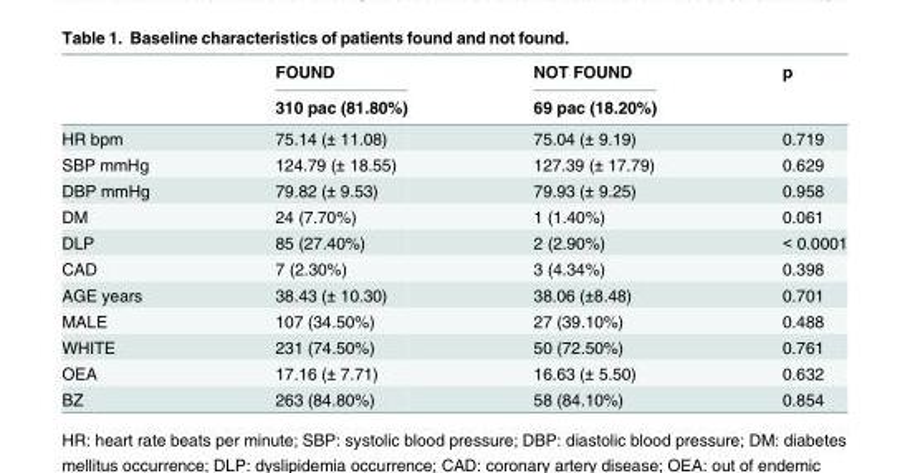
<table><thead><tr><td rowspan="2"></td><td rowspan="2">FOUND 310 pac (81.80%)</td><td rowspan="2">NOT FOUND 69 pac (18.20%)</td><td rowspan="2">p</td></tr><tr></tr></thead><tbody><tr><td>HR bpm</td><td>75.14 (± 11.08)</td><td>75.04 (± 9.19)</td><td>0.719</td></tr><tr><td>SBP mmHg</td><td>124.79 (± 18.55)</td><td>127.39 (± 17.79)</td><td>0.629</td></tr><tr><td>DBP mmHg</td><td>79.82 (± 9.53)</td><td>79.93 (± 9.25)</td><td>0.958</td></tr><tr><td>DM</td><td>24 (7.70%)</td><td>1 (1.40%)</td><td>0.061</td></tr><tr><td>DLP</td><td>85 (27.40%)</td><td>2 (2.90%)</td><td>&lt; 0.0001</td></tr><tr><td>CAD</td><td>7 (2.30%)</td><td>3 (4.34%)</td><td>0.398</td></tr><tr><td>AGE years</td><td>38.43 (± 10.30)</td><td>38.06 (±8.48)</td><td>0.701</td></tr><tr><td>MALE</td><td>107 (34.50%)</td><td>27 (39.10%)</td><td>0.488</td></tr><tr><td>WHITE</td><td>231 (74.50%)</td><td>50 (72.50%)</td><td>0.761</td></tr><tr><td>OEA</td><td>17.16 (± 7.71)</td><td>16.63 (± 5.50)</td><td>0.632</td></tr><tr><td>BZ</td><td>263 (84.80%)</td><td>58 (84.10%)</td><td>0.854</td></tr></tbody></table>